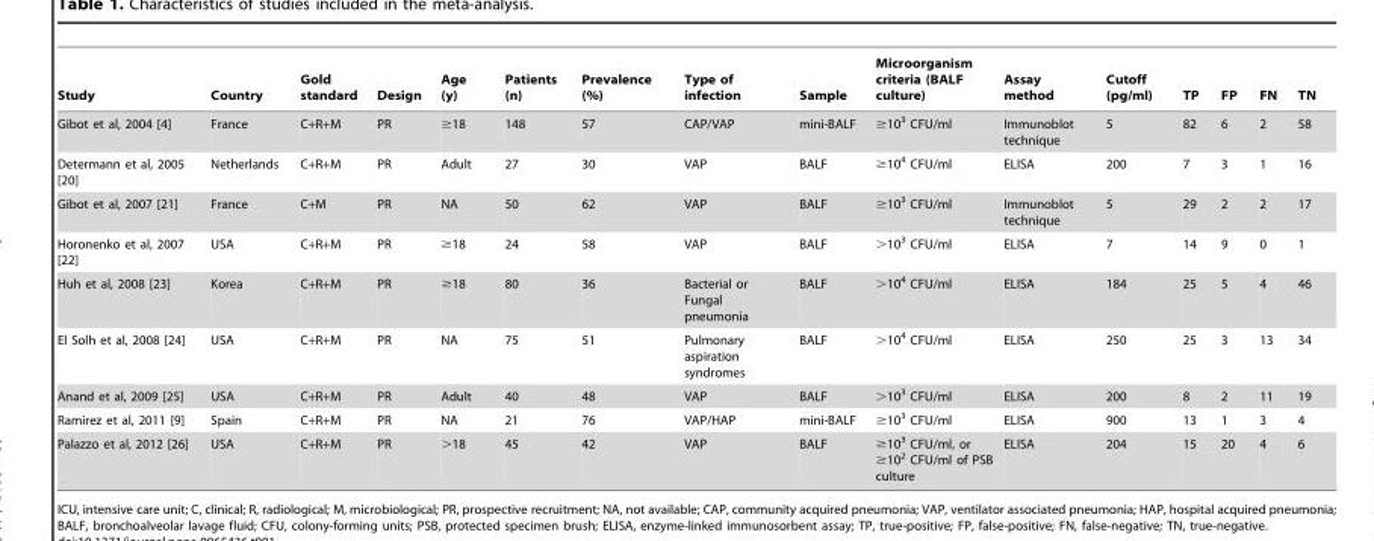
<table><thead><tr><td>Study</td><td>Country</td><td>Gold standard</td><td>Design</td><td>Age (y)</td><td>Patients (n)</td><td>Prevalence (%)</td><td>Type of infection</td><td>Sample</td><td>Microorganism criteria (BALF culture)</td><td>Assay method</td><td>Cutoff (pg/ml)</td><td>TP</td><td>FP</td><td>FN</td><td>TN</td></tr></thead><tbody><tr><td>Gibot et al, 2004 [4]</td><td>France</td><td>C+R+M</td><td>PR</td><td>≥18</td><td>148</td><td>57</td><td>CAP/VAP</td><td>mini-BALF</td><td>≥10<sup>3</sup> CFU/ml</td><td>Immunoblot technique</td><td>5</td><td>82</td><td>6</td><td>2</td><td>58</td></tr><tr><td>Determann et al, 2005 [20]</td><td>Netherlands</td><td>C+R+M</td><td>PR</td><td>Adult</td><td>27</td><td>30</td><td>VAP</td><td>BALF</td><td>≥10<sup>4</sup> CFU/ml</td><td>ELISA</td><td>200</td><td>7</td><td>3</td><td>1</td><td>16</td></tr><tr><td>Gibot et al, 2007 [21]</td><td>France</td><td>C+M</td><td>PR</td><td>NA</td><td>50</td><td>62</td><td>VAP</td><td>BALF</td><td>≥10<sup>3</sup> CFU/ml</td><td>Immunoblot technique</td><td>5</td><td>29</td><td>2</td><td>2</td><td>17</td></tr><tr><td>Horonenko et al, 2007 [22]</td><td>USA</td><td>C+R+M</td><td>PR</td><td>≥18</td><td>24</td><td>58</td><td>VAP</td><td>BALF</td><td>&gt;10<sup>3</sup> CFU/ml</td><td>ELISA</td><td>7</td><td>14</td><td>9</td><td>0</td><td>1</td></tr><tr><td>Huh et al, 2008 [23]</td><td>Korea</td><td>C+R+M</td><td>PR</td><td>≥18</td><td>80</td><td>36</td><td>Bacterial or Fungal pneumonia</td><td>BALF</td><td>&gt;10<sup>4</sup> CFU/ml</td><td>ELISA</td><td>184</td><td>25</td><td>5</td><td>4</td><td>46</td></tr><tr><td>El Solh et al, 2008 [24]</td><td>USA</td><td>C+R+M</td><td>PR</td><td>NA</td><td>75</td><td>51</td><td>Pulmonary aspiration syndromes</td><td>BALF</td><td>&gt;10<sup>4</sup> CFU/ml</td><td>ELISA</td><td>250</td><td>25</td><td>3</td><td>13</td><td>34</td></tr><tr><td>Anand et al, 2009 [25]</td><td>USA</td><td>C+R+M</td><td>PR</td><td>Adult</td><td>40</td><td>48</td><td>VAP</td><td>BALF</td><td>&gt;10<sup>3</sup> CFU/ml</td><td>ELISA</td><td>200</td><td>8</td><td>2</td><td>11</td><td>19</td></tr><tr><td>Ramirez et al, 2011 [9]</td><td>Spain</td><td>C+R+M</td><td>PR</td><td>NA</td><td>21</td><td>76</td><td>VAP/HAP</td><td>mini-BALF</td><td>≥10<sup>3</sup> CFU/ml</td><td>ELISA</td><td>900</td><td>13</td><td>1</td><td>3</td><td>4</td></tr><tr><td>Palazzo et al, 2012 [26]</td><td>USA</td><td>C+R+M</td><td>PR</td><td>&gt;18</td><td>45</td><td>42</td><td>VAP</td><td>BALF</td><td>≥10<sup>3</sup> CFU/ml, or ≥10<sup>2</sup> CFU/ml of PSB culture</td><td>ELISA</td><td>204</td><td>15</td><td>20</td><td>4</td><td>6</td></tr></tbody></table>